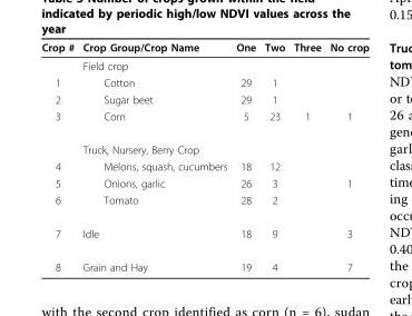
<table><thead><tr><td>Crop #</td><td>Crop Group/Crop Name</td><td>One</td><td>Two</td><td>Three</td><td>No crop</td></tr></thead><tbody><tr><td></td><td>Field crop</td><td></td><td></td><td></td><td></td></tr><tr><td>1</td><td>Cotton</td><td>29</td><td>1</td><td></td><td></td></tr><tr><td>2</td><td>Sugar beet</td><td>29</td><td>1</td><td></td><td></td></tr><tr><td rowspan="2">3</td><td>Corn</td><td>5</td><td>23</td><td>1</td><td>1</td></tr><tr><td>Truck, Nursery, Berry Crop</td><td></td><td></td><td></td><td></td></tr><tr><td>4</td><td>Melons, squash, cucumbers</td><td>18</td><td>12</td><td></td><td></td></tr><tr><td>5</td><td>Onions, garlic</td><td>26</td><td>3</td><td></td><td>1</td></tr><tr><td>6</td><td>Tomato</td><td>28</td><td>2</td><td></td><td></td></tr><tr><td>7</td><td>Idle</td><td>18</td><td>9</td><td></td><td>3</td></tr><tr><td>8</td><td>Grain and Hay</td><td>19</td><td>4</td><td></td><td>7</td></tr></tbody></table>